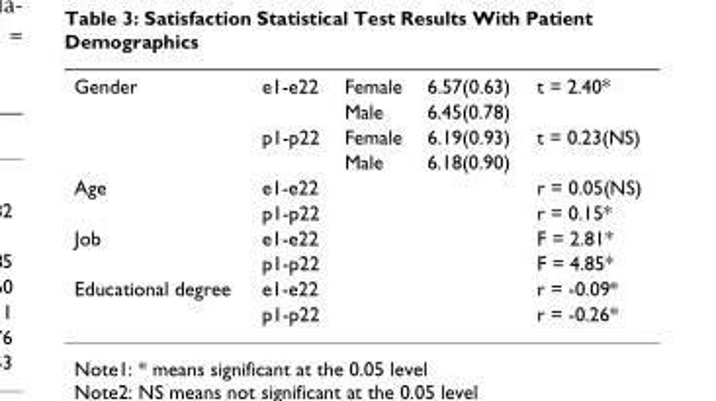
<table><tbody><tr><td rowspan="4">Gender</td><td>e1-e22</td><td>Female</td><td>6.57(0.63)</td><td>t = 2.40*</td></tr><tr><td></td><td>Male</td><td>6.45(0.78)</td><td></td></tr><tr><td>p1-p22</td><td>Female</td><td>6.19(0.93)</td><td>t = 0.23(NS)</td></tr><tr><td></td><td>Male</td><td>6.18(0.90)</td><td></td></tr><tr><td rowspan="2">Age</td><td>e1-e22</td><td></td><td></td><td>r = 0.05(NS)</td></tr><tr><td>p1-p22</td><td></td><td></td><td>r = 0.15*</td></tr><tr><td rowspan="2">Job</td><td>e1-e22</td><td></td><td></td><td>F = 2.81*</td></tr><tr><td>p1-p22</td><td></td><td></td><td>F = 4.85*</td></tr><tr><td rowspan="2">Educational degree</td><td>e1-e22</td><td></td><td></td><td>r = -0.09*</td></tr><tr><td>p1-p22</td><td></td><td></td><td>r = -0.26*</td></tr></tbody></table>